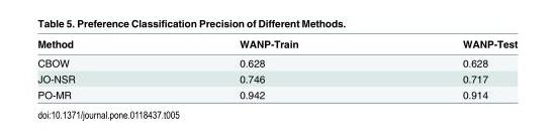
<table><thead><tr><td>Method</td><td>WANP-Train</td><td>WANP-Test</td></tr></thead><tbody><tr><td>CBOW</td><td>0.628</td><td>0.628</td></tr><tr><td>JO-NSR</td><td>0.746</td><td>0.717</td></tr><tr><td>PO-MR</td><td>0.942</td><td>0.914</td></tr></tbody></table>